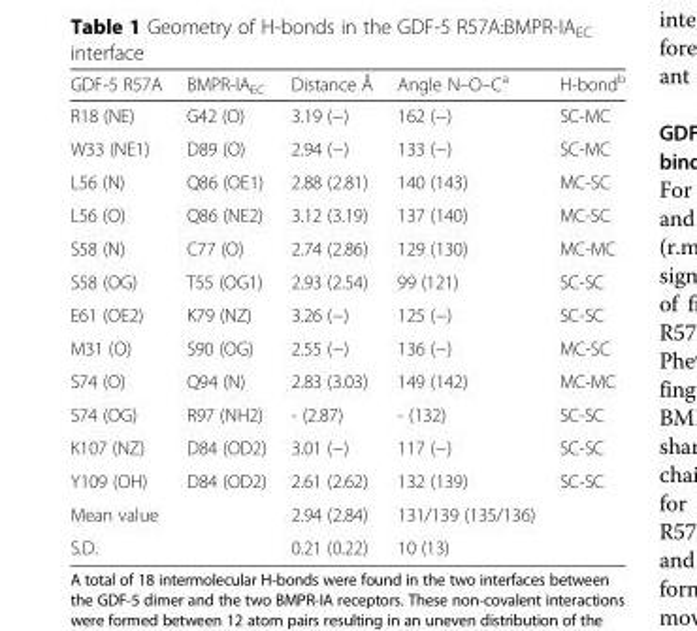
<table><thead><tr><td>GDF-5 R57A</td><td>BMPR-IA<sub>EC</sub></td><td>Distance Å</td><td>Angle N–O–C<sup>a</sup></td><td>H-bond<sup>b</sup></td></tr></thead><tbody><tr><td>R18 (NE)</td><td>G42 (O)</td><td>3.19 (−)</td><td>162 (−)</td><td>SC-MC</td></tr><tr><td>W33 (NE1)</td><td>D89 (O)</td><td>2.94 (−)</td><td>133 (−)</td><td>SC-MC</td></tr><tr><td>L56 (N)</td><td>Q86 (OE1)</td><td>2.88 (2.81)</td><td>140 (143)</td><td>MC-SC</td></tr><tr><td>L56 (O)</td><td>Q86 (NE2)</td><td>3.12 (3.19)</td><td>137 (140)</td><td>MC-SC</td></tr><tr><td>S58 (N)</td><td>C77 (O)</td><td>2.74 (2.86)</td><td>129 (130)</td><td>MC-MC</td></tr><tr><td>S58 (OG)</td><td>T55 (OG1)</td><td>2.93 (2.54)</td><td>99 (121)</td><td>SC-SC</td></tr><tr><td>E61 (OE2)</td><td>K79 (NZ)</td><td>3.26 (−)</td><td>125 (−)</td><td>SC-SC</td></tr><tr><td>M31 (O)</td><td>S90 (OG)</td><td>2.55 (−)</td><td>136 (−)</td><td>MC-SC</td></tr><tr><td>S74 (O)</td><td>Q94 (N)</td><td>2.83 (3.03)</td><td>149 (142)</td><td>MC-MC</td></tr><tr><td>S74 (OG)</td><td>R97 (NH2)</td><td>- (2.87)</td><td>- (132)</td><td>SC-SC</td></tr><tr><td>K107 (NZ)</td><td>D84 (OD2)</td><td>3.01 (−)</td><td>117 (−)</td><td>SC-SC</td></tr><tr><td>Y109 (OH)</td><td>D84 (OD2)</td><td>2.61 (2.62)</td><td>132 (139)</td><td>SC-SC</td></tr><tr><td>Mean value</td><td></td><td>2.94 (2.84)</td><td>131/139 (135/136)</td><td></td></tr><tr><td>S.D.</td><td></td><td>0.21 (0.22)</td><td>10 (13)</td><td></td></tr></tbody></table>